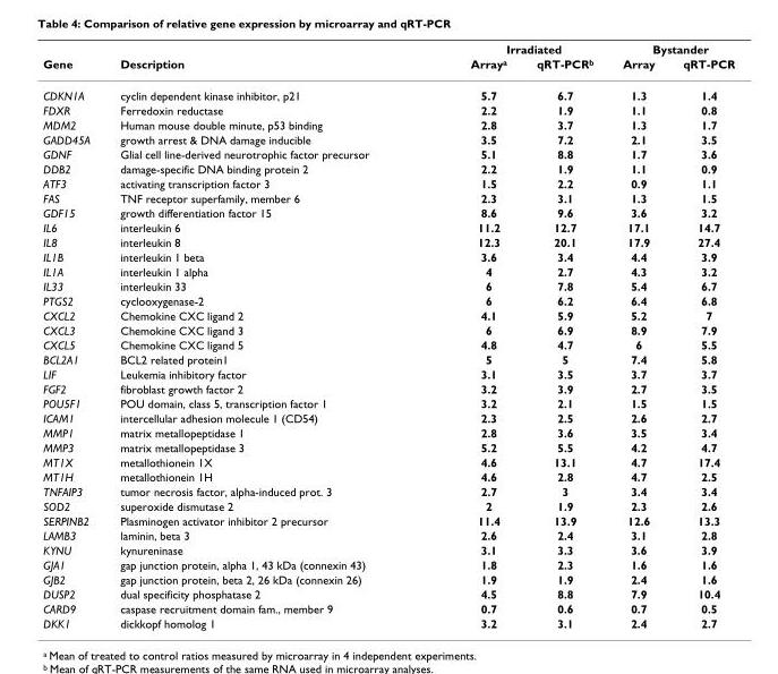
<table><thead><tr><td rowspan="2">Gene</td><td rowspan="2">Description</td><td colspan="2">Irradiated</td><td colspan="2">Bystander</td></tr><tr><td>Array<sup>a</sup></td><td>qRT-PCR<sup>b</sup></td><td>Array</td><td>qRT-PCR</td></tr></thead><tbody><tr><td>CDKN1A</td><td>cyclin dependent kinase inhibitor, p21</td><td>5.7</td><td>6.7</td><td>1.3</td><td>1.4</td></tr><tr><td>FDXR</td><td>Ferredoxin reductase</td><td>2.2</td><td>1.9</td><td>1.1</td><td>0.8</td></tr><tr><td>MDM2</td><td>Human mouse double minute, p53 binding</td><td>2.8</td><td>3.7</td><td>1.3</td><td>1.7</td></tr><tr><td>GADD45A</td><td>growth arrest &amp; DNA damage inducible</td><td>3.5</td><td>7.2</td><td>2.1</td><td>3.5</td></tr><tr><td>GDNF</td><td>Glial cell line-derived neurotrophic factor precursor</td><td>5.1</td><td>8.8</td><td>1.7</td><td>3.6</td></tr><tr><td>DDB2</td><td>damage-specific DNA binding protein 2</td><td>2.2</td><td>1.9</td><td>1.1</td><td>0.9</td></tr><tr><td>ATF3</td><td>activating transcription factor 3</td><td>1.5</td><td>2.2</td><td>0.9</td><td>1.1</td></tr><tr><td>FAS</td><td>TNF receptor superfamily, member 6</td><td>2.3</td><td>3.1</td><td>1.3</td><td>1.5</td></tr><tr><td>GDF15</td><td>growth differentiation factor 15</td><td>8.6</td><td>9.6</td><td>3.6</td><td>3.2</td></tr><tr><td>IL6</td><td>interleukin 6</td><td>11.2</td><td>12.7</td><td>17.1</td><td>14.7</td></tr><tr><td>IL8</td><td>interleukin 8</td><td>12.3</td><td>20.1</td><td>17.9</td><td>27.4</td></tr><tr><td>IL1B</td><td>interleukin 1 beta</td><td>3.6</td><td>3.4</td><td>4.4</td><td>3.9</td></tr><tr><td>IL1A</td><td>interleukin 1 alpha</td><td>4</td><td>2.7</td><td>4.3</td><td>3.2</td></tr><tr><td>IL33</td><td>interleukin 33</td><td>6</td><td>7.8</td><td>5.4</td><td>6.7</td></tr><tr><td>PTGS2</td><td>cyclooxygenase-2</td><td>6</td><td>6.2</td><td>6.4</td><td>6.8</td></tr><tr><td>CXCL2</td><td>Chemokine CXC ligand 2</td><td>4.1</td><td>5.9</td><td>5.2</td><td>7</td></tr><tr><td>CXCL3</td><td>Chemokine CXC ligand 3</td><td>6</td><td>6.9</td><td>8.9</td><td>7.9</td></tr><tr><td>CXCL5</td><td>Chemokine CXC ligand 5</td><td>4.8</td><td>4.7</td><td>6</td><td>5.5</td></tr><tr><td>BCL2A1</td><td>BCL2 related protein1</td><td>5</td><td>5</td><td>7.4</td><td>5.8</td></tr><tr><td>LIF</td><td>Leukemia inhibitory factor</td><td>3.1</td><td>3.5</td><td>3.7</td><td>3.7</td></tr><tr><td>FGF2</td><td>fibroblast growth factor 2</td><td>3.2</td><td>3.9</td><td>2.7</td><td>3.5</td></tr><tr><td>POU5F1</td><td>POU domain, class 5, transcription factor 1</td><td>3.2</td><td>2.1</td><td>1.5</td><td>1.5</td></tr><tr><td>ICAM1</td><td>intercellular adhesion molecule 1 (CD54)</td><td>2.3</td><td>2.5</td><td>2.6</td><td>2.7</td></tr><tr><td>MMP1</td><td>matrix metallopeptidase 1</td><td>2.8</td><td>3.6</td><td>3.5</td><td>3.4</td></tr><tr><td>MMP3</td><td>matrix metallopeptidase 3</td><td>5.2</td><td>5.5</td><td>4.2</td><td>4.7</td></tr><tr><td>MT1X</td><td>metallothionein 1X</td><td>4.6</td><td>13.1</td><td>4.7</td><td>17.4</td></tr><tr><td>MT1H</td><td>metallothionein 1H</td><td>4.6</td><td>2.8</td><td>4.7</td><td>2.5</td></tr><tr><td>TNFAIP3</td><td>tumor necrosis factor, alpha-induced prot. 3</td><td>2.7</td><td>3</td><td>3.4</td><td>3.4</td></tr><tr><td>SOD2</td><td>superoxide dismutase 2</td><td>2</td><td>1.9</td><td>2.3</td><td>2.6</td></tr><tr><td>SERPINB2</td><td>Plasminogen activator inhibitor 2 precursor</td><td>11.4</td><td>13.9</td><td>12.6</td><td>13.3</td></tr><tr><td>LAMB3</td><td>laminin, beta 3</td><td>2.6</td><td>2.4</td><td>3.1</td><td>2.8</td></tr><tr><td>KYNU</td><td>kynureninase</td><td>3.1</td><td>3.3</td><td>3.6</td><td>3.9</td></tr><tr><td>GJA1</td><td>gap junction protein, alpha 1, 43 kDa (connexin 43)</td><td>1.8</td><td>2.3</td><td>1.6</td><td>1.6</td></tr><tr><td>GJB2</td><td>gap junction protein, beta 2, 26 kDa (connexin 26)</td><td>1.9</td><td>1.9</td><td>2.4</td><td>1.6</td></tr><tr><td>DUSP2</td><td>dual specificity phosphatase 2</td><td>4.5</td><td>8.8</td><td>7.9</td><td>10.4</td></tr><tr><td>CARD9</td><td>caspase recruitment domain fam., member 9</td><td>0.7</td><td>0.6</td><td>0.7</td><td>0.5</td></tr><tr><td>DKK1</td><td>dickkopf homolog 1</td><td>3.2</td><td>3.1</td><td>2.4</td><td>2.7</td></tr></tbody></table>